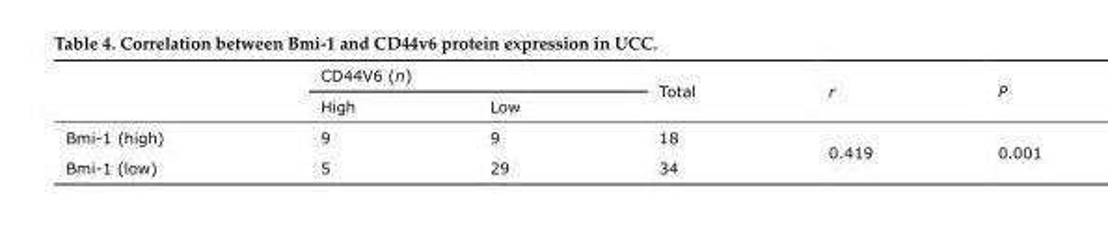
<table><thead><tr><td rowspan="2"></td><td colspan="2">CD44V6 (n)</td><td rowspan="2">Total</td><td rowspan="2">r</td><td rowspan="2">P</td></tr><tr><td>High</td><td>Low</td></tr></thead><tbody><tr><td>Bmi-1 (high)</td><td>9</td><td>9</td><td>18</td><td rowspan="2">0.419</td><td rowspan="2">0.001</td></tr><tr><td>Bmi-1 (low)</td><td>5</td><td>29</td><td>34</td></tr></tbody></table>